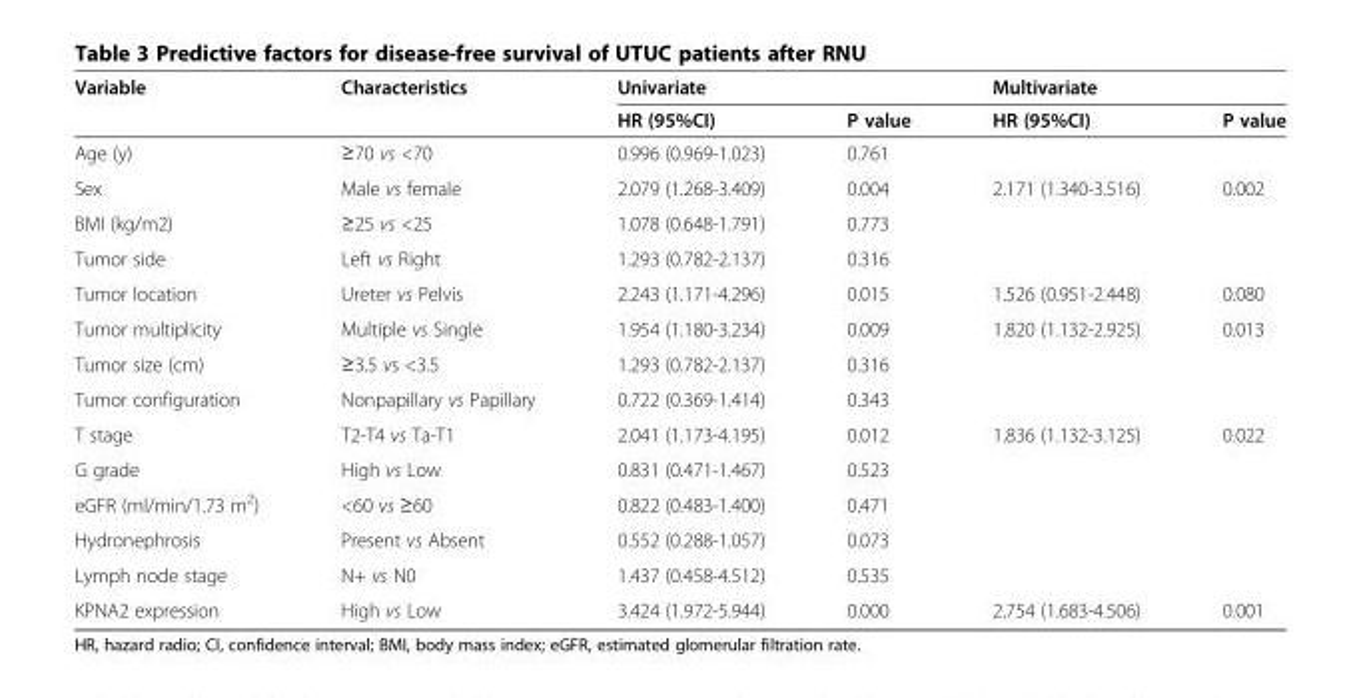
<table><thead><tr><td rowspan="2">Variable</td><td rowspan="2">Characteristics</td><td colspan="2">Univariate</td><td colspan="2">Multivariate</td></tr><tr><td>HR (95%CI)</td><td>P value</td><td>HR (95%CI)</td><td>P value</td></tr></thead><tbody><tr><td>Age (y)</td><td>≥70 vs &lt;70</td><td>0.996 (0.969-1.023)</td><td>0.761</td><td></td><td></td></tr><tr><td>Sex</td><td>Male vs female</td><td>2.079 (1.268-3.409)</td><td>0.004</td><td>2.171 (1.340-3.516)</td><td>0.002</td></tr><tr><td>BMI (kg/m2)</td><td>≥25 vs &lt;25</td><td>1.078 (0.648-1.791)</td><td>0.773</td><td></td><td></td></tr><tr><td>Tumor side</td><td>Left vs Right</td><td>1.293 (0.782-2.137)</td><td>0.316</td><td></td><td></td></tr><tr><td>Tumor location</td><td>Ureter vs Pelvis</td><td>2.243 (1.171-4.296)</td><td>0.015</td><td>1.526 (0.951-2.448)</td><td>0.080</td></tr><tr><td>Tumor multiplicity</td><td>Multiple vs Single</td><td>1.954 (1.180-3.234)</td><td>0.009</td><td>1.820 (1.132-2.925)</td><td>0.013</td></tr><tr><td>Tumor size (cm)</td><td>≥3.5 vs &lt;3.5</td><td>1.293 (0.782-2.137)</td><td>0.316</td><td></td><td></td></tr><tr><td>Tumor configuration</td><td>Nonpapillary vs Papillary</td><td>0.722 (0.369-1.414)</td><td>0.343</td><td></td><td></td></tr><tr><td>T stage</td><td>T2-T4 vs Ta-T1</td><td>2.041 (1.173-4.195)</td><td>0.012</td><td>1.836 (1.132-3.125)</td><td>0.022</td></tr><tr><td>G grade</td><td>High vs Low</td><td>0.831 (0.471-1.467)</td><td>0.523</td><td></td><td></td></tr><tr><td>eGFR (ml/min/1.73 m<sup>2</sup>)</td><td>&lt;60 vs ≥60</td><td>0.822 (0.483-1.400)</td><td>0.471</td><td></td><td></td></tr><tr><td>Hydronephrosis</td><td>Present vs Absent</td><td>0.552 (0.288-1.057)</td><td>0.073</td><td></td><td></td></tr><tr><td>Lymph node stage</td><td>N+ vs N0</td><td>1.437 (0.458-4.512)</td><td>0.535</td><td></td><td></td></tr><tr><td>KPNA2 expression</td><td>High vs Low</td><td>3.424 (1.972-5.944)</td><td>0.000</td><td>2.754 (1.683-4.506)</td><td>0.001</td></tr></tbody></table>